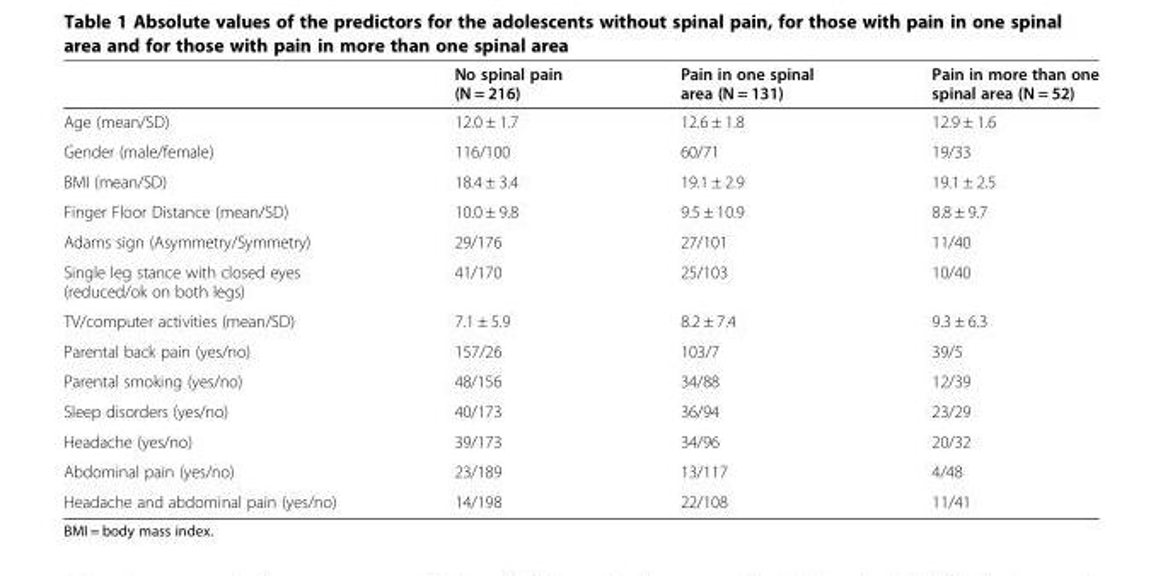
<table><thead><tr><td></td><td>No spinal pain (N = 216)</td><td>Pain in one spinal area (N = 131)</td><td>Pain in more than one spinal area (N = 52)</td></tr></thead><tbody><tr><td>Age (mean/SD)</td><td>12.0 ± 1.7</td><td>12.6 ± 1.8</td><td>12.9 ± 1.6</td></tr><tr><td>Gender (male/female)</td><td>116/100</td><td>60/71</td><td>19/33</td></tr><tr><td>BMI (mean/SD)</td><td>18.4 ± 3.4</td><td>19.1 ± 2.9</td><td>19.1 ± 2.5</td></tr><tr><td>Finger Floor Distance (mean/SD)</td><td>10.0 ± 9.8</td><td>9.5 ± 10.9</td><td>8.8 ± 9.7</td></tr><tr><td>Adams sign (Asymmetry/Symmetry)</td><td>29/176</td><td>27/101</td><td>11/40</td></tr><tr><td>Single leg stance with closed eyes (reduced/ok on both legs)</td><td>41/170</td><td>25/103</td><td>10/40</td></tr><tr><td>TV/computer activities (mean/SD)</td><td>7.1 ± 5.9</td><td>8.2 ± 7.4</td><td>9.3 ± 6.3</td></tr><tr><td>Parental back pain (yes/no)</td><td>157/26</td><td>103/7</td><td>39/5</td></tr><tr><td>Parental smoking (yes/no)</td><td>48/156</td><td>34/88</td><td>12/39</td></tr><tr><td>Sleep disorders (yes/no)</td><td>40/173</td><td>36/94</td><td>23/29</td></tr><tr><td>Headache (yes/no)</td><td>39/173</td><td>34/96</td><td>20/32</td></tr><tr><td>Abdominal pain (yes/no)</td><td>23/189</td><td>13/117</td><td>4/48</td></tr><tr><td>Headache and abdominal pain (yes/no)</td><td>14/198</td><td>22/108</td><td>11/41</td></tr></tbody></table>